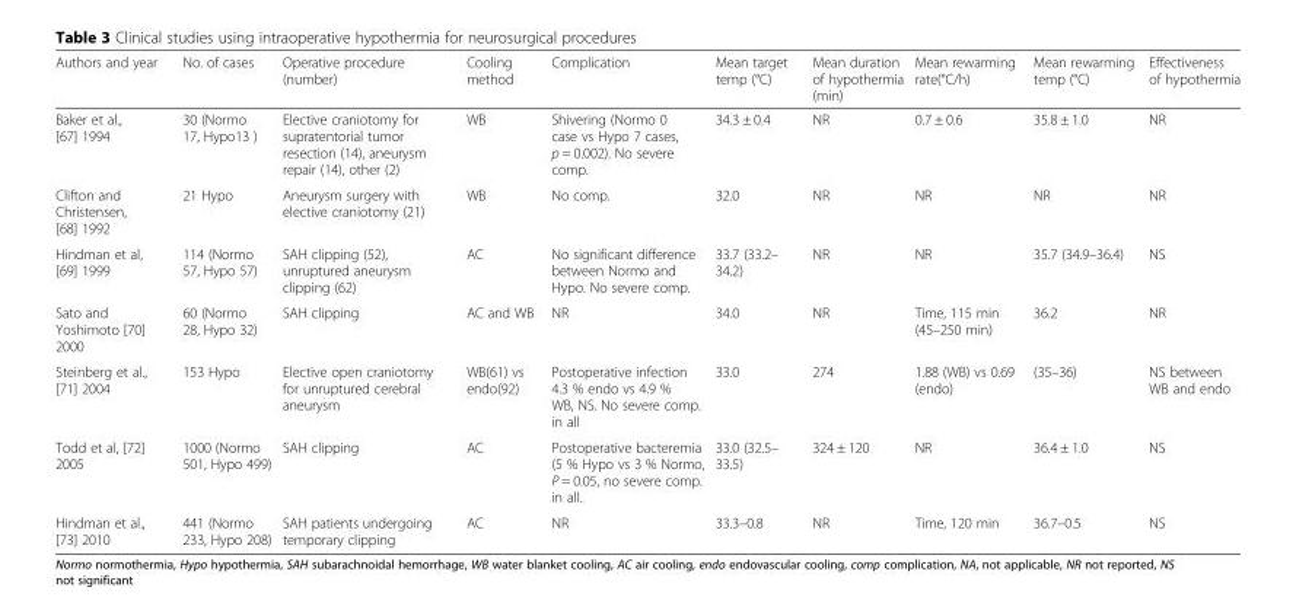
<table><thead><tr><td>Authors and year</td><td>No. of cases</td><td>Operative procedure (number)</td><td>Cooling method</td><td>Complication</td><td>Mean target temp (°C)</td><td>Mean duration of hypothermia (min)</td><td>Mean rewarming rate(°C/h)</td><td>Mean rewarming temp (°C)</td><td>Effectiveness of hypothermia</td></tr></thead><tbody><tr><td>Baker et al., [67] 1994</td><td>30 (Normo 17, Hypo13 )</td><td>Elective craniotomy for supratentorial tumor resection (14), aneurysm repair (14), other (2)</td><td>WB</td><td>Shivering (Normo 0 case vs Hypo 7 cases, p = 0.002). No severe comp.</td><td>34.3 ± 0.4</td><td>NR</td><td>0.7 ± 0.6</td><td>35.8 ± 1.0</td><td>NR</td></tr><tr><td>Clifton and Christensen, [68] 1992</td><td>21 Hypo</td><td>Aneurysm surgery with elective craniotomy (21)</td><td>WB</td><td>No comp.</td><td>32.0</td><td>NR</td><td>NR</td><td>NR</td><td>NR</td></tr><tr><td>Hindman et al, [69] 1999</td><td>114 (Normo 57, Hypo 57)</td><td>SAH clipping (52), unruptured aneurysm clipping (62)</td><td>AC</td><td>No significant difference between Normo and Hypo. No severe comp.</td><td>33.7 (33.2– 34.2)</td><td>NR</td><td>NR</td><td>35.7 (34.9–36.4)</td><td>NS</td></tr><tr><td>Sato and Yoshimoto [70] 2000</td><td>60 (Normo 28, Hypo 32)</td><td>SAH clipping</td><td>AC and WB</td><td>NR</td><td>34.0</td><td>NR</td><td>Time, 115 min (45–250 min)</td><td>36.2</td><td>NR</td></tr><tr><td>Steinberg et al., [71] 2004</td><td>153 Hypo</td><td>Elective open craniotomy for unruptured cerebral aneurysm</td><td>WB(61) vs endo(92)</td><td>Postoperative infection 4.3 % endo vs 4.9 % WB, NS. No severe comp. in all</td><td>33.0</td><td>274</td><td>1.88 (WB) vs 0.69 (endo)</td><td>(35–36)</td><td>NS between WB and endo</td></tr><tr><td>Todd et al, [72] 2005</td><td>1000 (Normo 501, Hypo 499)</td><td>SAH clipping</td><td>AC</td><td>Postoperative bacteremia (5 % Hypo vs 3 % Normo, P = 0.05, no severe comp. in all.</td><td>33.0 (32.5– 33.5)</td><td>324 ± 120</td><td>NR</td><td>36.4 ± 1.0</td><td>NS</td></tr><tr><td>Hindman et al., [73] 2010</td><td>441 (Normo 233, Hypo 208)</td><td>SAH patients undergoing temporary clipping</td><td>AC</td><td>NR</td><td>33.3–0.8</td><td>NR</td><td>Time, 120 min</td><td>36.7–0.5</td><td>NS</td></tr></tbody></table>